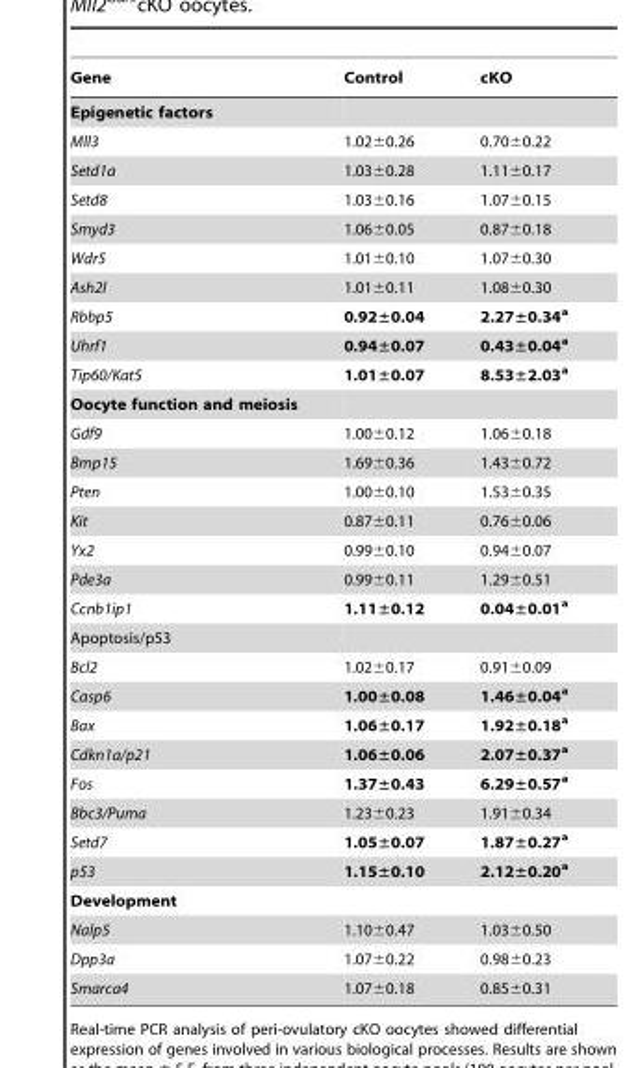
<table><thead><tr><td>Gene</td><td>Control</td><td>cKO</td></tr></thead><tbody><tr><td colspan="3">Epigenetic factors</td></tr><tr><td>Mll3</td><td>1.02±0.26</td><td>0.70±0.22</td></tr><tr><td>Setd1a</td><td>1.03±0.28</td><td>1.11±0.17</td></tr><tr><td>Setd8</td><td>1.03±0.16</td><td>1.07±0.15</td></tr><tr><td>Smyd3</td><td>1.06±0.05</td><td>0.87±0.18</td></tr><tr><td>Wdr5</td><td>1.01±0.10</td><td>1.07±0.30</td></tr><tr><td>Ash2l</td><td>1.01±0.11</td><td>1.08±0.30</td></tr><tr><td>Rbbp5</td><td>0.92±0.04</td><td>2.27±0.34a</td></tr><tr><td>Uhrf1</td><td>0.94±0.07</td><td>0.43±0.04a</td></tr><tr><td>Tip60/Kat5</td><td>1.01±0.07</td><td>8.53±2.03a</td></tr><tr><td colspan="3">Oocyte function and meiosis</td></tr><tr><td>Gdf9</td><td>1.00±0.12</td><td>1.06±0.18</td></tr><tr><td>Bmp15</td><td>1.69±0.36</td><td>1.43±0.72</td></tr><tr><td>Pten</td><td>1.00±0.10</td><td>1.53±0.35</td></tr><tr><td>Kit</td><td>0.87±0.11</td><td>0.76±0.06</td></tr><tr><td>Yx2</td><td>0.99±0.10</td><td>0.94±0.07</td></tr><tr><td>Pde3a</td><td>0.99±0.11</td><td>1.29±0.51</td></tr><tr><td>Ccnb1ip1</td><td>1.11±0.12</td><td>0.04±0.01a</td></tr><tr><td colspan="3">Apoptosis/p53</td></tr><tr><td>Bcl2</td><td>1.02±0.17</td><td>0.91±0.09</td></tr><tr><td>Casp6</td><td>1.00±0.08</td><td>1.46±0.04a</td></tr><tr><td>Bax</td><td>1.06±0.17</td><td>1.92±0.18a</td></tr><tr><td>Cdkn1a/p21</td><td>1.06±0.06</td><td>2.07±0.37a</td></tr><tr><td>Fos</td><td>1.37±0.43</td><td>6.29±0.57a</td></tr><tr><td>Bbc3/Puma</td><td>1.23±0.23</td><td>1.91±0.34</td></tr><tr><td>Setd7</td><td>1.05±0.07</td><td>1.87±0.27a</td></tr><tr><td>p53</td><td>1.15±0.10</td><td>2.12±0.20a</td></tr><tr><td colspan="3">Development</td></tr><tr><td>Nalp5</td><td>1.10±0.47</td><td>1.03±0.50</td></tr><tr><td>Dpp3a</td><td>1.07±0.22</td><td>0.98±0.23</td></tr><tr><td>Smarca4</td><td>1.07±0.18</td><td>0.85±0.31</td></tr></tbody></table>